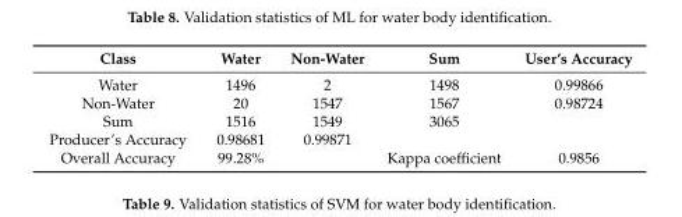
<table><thead><tr><td>Class</td><td>Water</td><td>Non-Water</td><td>Sum</td><td>User’s Accuracy</td></tr></thead><tbody><tr><td>Water</td><td>1496</td><td>2</td><td>1498</td><td>0.99866</td></tr><tr><td>Non-Water</td><td>20</td><td>1547</td><td>1567</td><td>0.98724</td></tr><tr><td>Sum</td><td>1516</td><td>1549</td><td>3065</td><td></td></tr><tr><td>Producer’s Accuracy</td><td>0.98681</td><td>0.99871</td><td></td><td></td></tr><tr><td>Overall Accuracy</td><td>99.28%</td><td></td><td>Kappa coefficient</td><td>0.9856</td></tr></tbody></table>